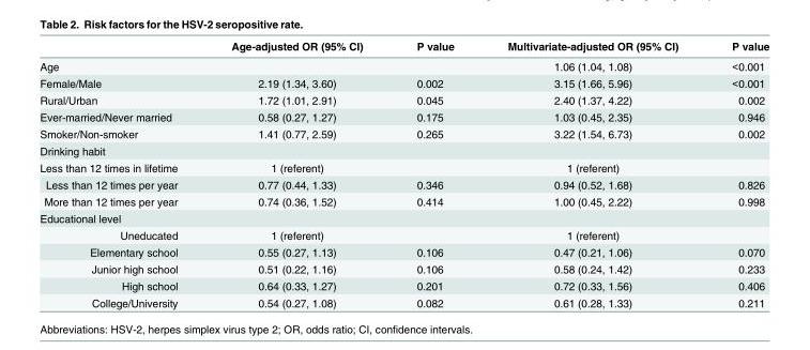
<table><thead><tr><td></td><td>Age-adjusted OR (95% CI)</td><td>P value</td><td>Multivariate-adjusted OR (95% CI)</td><td>P value</td></tr></thead><tbody><tr><td>Age</td><td></td><td></td><td>1.06 (1.04, 1.08)</td><td>&lt;0.001</td></tr><tr><td>Female/Male</td><td>2.19 (1.34, 3.60)</td><td>0.002</td><td>3.15 (1.66, 5.96)</td><td>&lt;0.001</td></tr><tr><td>Rural/Urban</td><td>1.72 (1.01, 2.91)</td><td>0.045</td><td>2.40 (1.37, 4.22)</td><td>0.002</td></tr><tr><td>Ever-married/Never married</td><td>0.58 (0.27, 1.27)</td><td>0.175</td><td>1.03 (0.45, 2.35)</td><td>0.946</td></tr><tr><td>Smoker/Non-smoker</td><td>1.41 (0.77, 2.59)</td><td>0.265</td><td>3.22 (1.54, 6.73)</td><td>0.002</td></tr><tr><td colspan="5">Drinking habit</td></tr><tr><td>Less than 12 times in lifetime</td><td>1 (referent)</td><td></td><td>1 (referent)</td><td></td></tr><tr><td>Less than 12 times per year</td><td>0.77 (0.44, 1.33)</td><td>0.346</td><td>0.94 (0.52, 1.68)</td><td>0.826</td></tr><tr><td>More than 12 times per year</td><td>0.74 (0.36, 1.52)</td><td>0.414</td><td>1.00 (0.45, 2.22)</td><td>0.998</td></tr><tr><td colspan="5">Educational level</td></tr><tr><td>Uneducated</td><td>1 (referent)</td><td></td><td>1 (referent)</td><td></td></tr><tr><td>Elementary school</td><td>0.55 (0.27, 1.13)</td><td>0.106</td><td>0.47 (0.21, 1.06)</td><td>0.070</td></tr><tr><td>Junior high school</td><td>0.51 (0.22, 1.16)</td><td>0.106</td><td>0.58 (0.24, 1.42)</td><td>0.233</td></tr><tr><td>High school</td><td>0.64 (0.33, 1.27)</td><td>0.201</td><td>0.72 (0.33, 1.56)</td><td>0.406</td></tr><tr><td>College/University</td><td>0.54 (0.27, 1.08)</td><td>0.082</td><td>0.61 (0.28, 1.33)</td><td>0.211</td></tr></tbody></table>